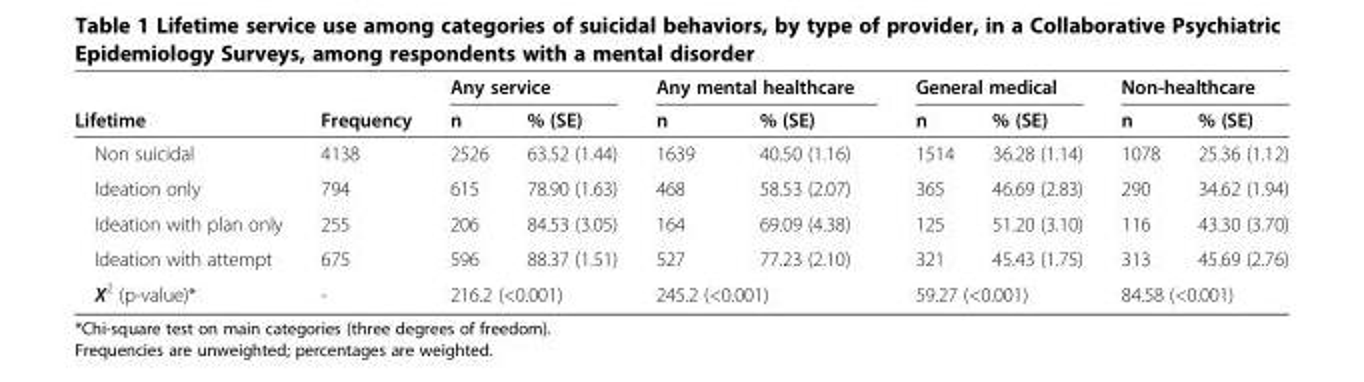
<table><thead><tr><td rowspan="2">Lifetime</td><td rowspan="2">Frequency</td><td colspan="2">Any service</td><td colspan="2">Any mental healthcare</td><td colspan="2">General medical</td><td colspan="2">Non-healthcare</td></tr><tr><td>n</td><td>% (SE)</td><td>n</td><td>% (SE)</td><td>n</td><td>% (SE)</td><td>n</td><td>% (SE)</td></tr></thead><tbody><tr><td>Non suicidal</td><td>4138</td><td>2526</td><td>63.52 (1.44)</td><td>1639</td><td>40.50 (1.16)</td><td>1514</td><td>36.28 (1.14)</td><td>1078</td><td>25.36 (1.12)</td></tr><tr><td>Ideation only</td><td>794</td><td>615</td><td>78.90 (1.63)</td><td>468</td><td>58.53 (2.07)</td><td>365</td><td>46.69 (2.83)</td><td>290</td><td>34.62 (1.94)</td></tr><tr><td>Ideation with plan only</td><td>255</td><td>206</td><td>84.53 (3.05)</td><td>164</td><td>69.09 (4.38)</td><td>125</td><td>51.20 (3.10)</td><td>116</td><td>43.30 (3.70)</td></tr><tr><td>Ideation with attempt</td><td>675</td><td>596</td><td>88.37 (1.51)</td><td>527</td><td>77.23 (2.10)</td><td>321</td><td>45.43 (1.75)</td><td>313</td><td>45.69 (2.76)</td></tr><tr><td>X<sup>2</sup> (p-value)*</td><td>-</td><td colspan="2">216.2 (&lt;0.001)</td><td colspan="2">245.2 (&lt;0.001)</td><td colspan="2">59.27 (&lt;0.001)</td><td colspan="2">84.58 (&lt;0.001)</td></tr></tbody></table>